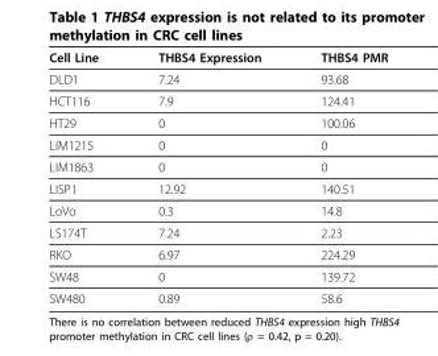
<table><thead><tr><td>Cell Line</td><td>THBS4 Expression</td><td>THBS4 PMR</td></tr></thead><tbody><tr><td>DLD1</td><td>7.24</td><td>93.68</td></tr><tr><td>HCT116</td><td>7.9</td><td>124.41</td></tr><tr><td>HT29</td><td>0</td><td>100.06</td></tr><tr><td>LIM1215</td><td>0</td><td>0</td></tr><tr><td>LIM1863</td><td>0</td><td>0</td></tr><tr><td>LISP1</td><td>12.92</td><td>140.51</td></tr><tr><td>LoVo</td><td>0.3</td><td>14.8</td></tr><tr><td>LS174T</td><td>7.24</td><td>2.23</td></tr><tr><td>RKO</td><td>6.97</td><td>224.29</td></tr><tr><td>SW48</td><td>0</td><td>139.72</td></tr><tr><td>SW480</td><td>0.89</td><td>58.6</td></tr></tbody></table>